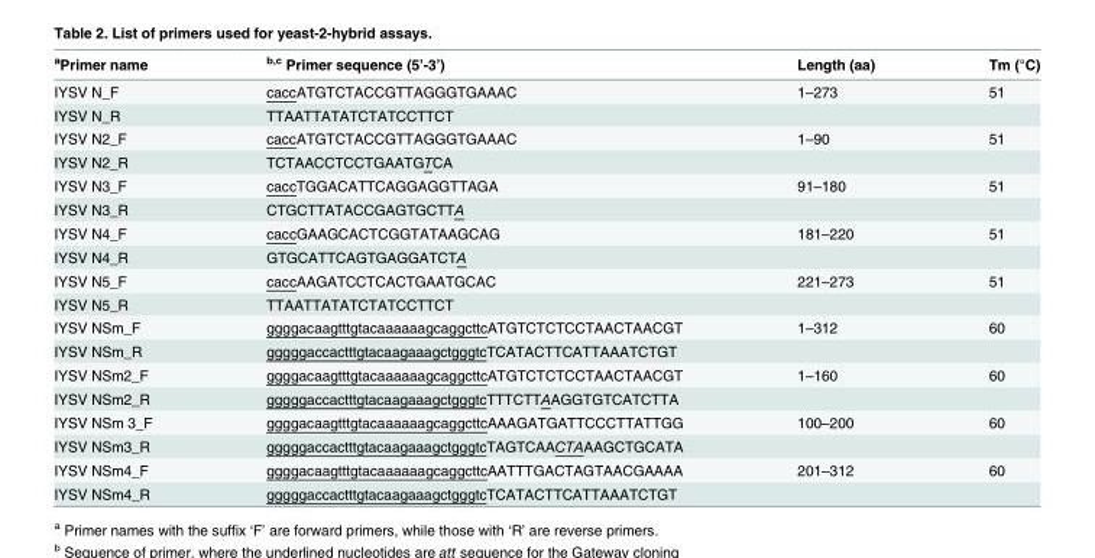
<table><thead><tr><td><sup>a</sup>Primer name</td><td><sup>b,c</sup> Primer sequence (5’-3’)</td><td>Length (aa)</td><td>Tm (°C)</td></tr></thead><tbody><tr><td>IYSV N_F</td><td>caccATGTCTACCGTTAGGGTGAAAC</td><td>1–273</td><td>51</td></tr><tr><td>IYSV N_R</td><td>TTAATTATATCTATCCTTCT</td><td></td><td></td></tr><tr><td>IYSV N2_F</td><td>caccATGTCTACCGTTAGGGTGAAAC</td><td>1–90</td><td>51</td></tr><tr><td>IYSV N2_R</td><td>TCTAACCTCCTGAATGTCA</td><td></td><td></td></tr><tr><td>IYSV N3_F</td><td>caccTGGACATTCAGGAGGTTAGA</td><td>91–180</td><td>51</td></tr><tr><td>IYSV N3_R</td><td>CTGCTTATACCGAGTGCTTA</td><td></td><td></td></tr><tr><td>IYSV N4_F</td><td>caccGAAGCACTCGGTATAAGCAG</td><td>181–220</td><td>51</td></tr><tr><td>IYSV N4_R</td><td>GTGCATTCAGTGAGGATCTA</td><td></td><td></td></tr><tr><td>IYSV N5_F</td><td>caccAAGATCCTCACTGAATGCAC</td><td>221–273</td><td>51</td></tr><tr><td>IYSV N5_R</td><td>TTAATTATATCTATCCTTCT</td><td></td><td></td></tr><tr><td>IYSV NSm_F</td><td>ggggacaagtttgtacaaaaaagcaggcttcATGTCTCTCCTAACTAACGT</td><td>1–312</td><td>60</td></tr><tr><td>IYSV NSm_R</td><td>gggggaccactttgtacaagaaagctgggtcTCATACTTCATTAAATCTGT</td><td></td><td></td></tr><tr><td>IYSV NSm2_F</td><td>ggggacaagtttgtacaaaaaagcaggcttcATGTCTCTCCTAACTAACGT</td><td>1–160</td><td>60</td></tr><tr><td>IYSV NSm2_R</td><td>gggggaccactttgtacaagaaagctgggtcTTTCTTAAGGTGTCATCTTA</td><td></td><td></td></tr><tr><td>IYSV NSm 3_F</td><td>ggggacaagtttgtacaaaaaagcaggcttcAAAGATGATTCCCTTATTGG</td><td>100–200</td><td>60</td></tr><tr><td>IYSV NSm3_R</td><td>gggggaccactttgtacaagaaagctgggtcTAGTCAACTAAAGCTGCATA</td><td></td><td></td></tr><tr><td>IYSV NSm4_F</td><td>ggggacaagtttgtacaaaaaagcaggcttcAATTTGACTAGTAACGAAAA</td><td>201–312</td><td>60</td></tr><tr><td>IYSV NSm4_R</td><td>gggggaccactttgtacaagaaagctgggtcTCATACTTCATTAAATCTGT</td><td></td><td></td></tr></tbody></table>